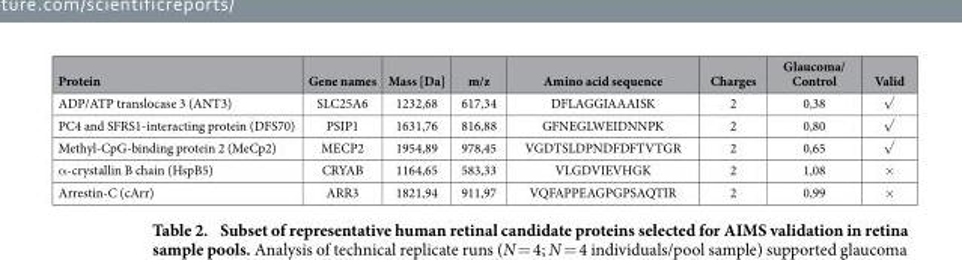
<table><thead><tr><td>Protein</td><td>Gene names</td><td>Mass [Da]</td><td>m/z</td><td>Amino acid sequence</td><td>Charges</td><td>Glaucoma/ Control</td><td>Valid</td></tr></thead><tbody><tr><td>ADP/ATP translocase 3 (ANT3)</td><td>SLC25A6</td><td>1232,68</td><td>617,34</td><td>DFLAGGIAAAISK</td><td>2</td><td>0,38</td><td>√</td></tr><tr><td>PC4 and SFRS1-interacting protein (DFS70)</td><td>PSIP1</td><td>1631,76</td><td>816,88</td><td>GFNEGLWEIDNNPK</td><td>2</td><td>0,80</td><td>√</td></tr><tr><td>Methyl-CpG-binding protein 2 (MeCp2)</td><td>MECP2</td><td>1954,89</td><td>978,45</td><td>VGDTSLDPNDFDFTVTGR</td><td>2</td><td>0,65</td><td>√</td></tr><tr><td>α -crystallin B chain (HspB5)</td><td>CRYAB</td><td>1164,65</td><td>583,33</td><td>VLGDVIEVHGK</td><td>2</td><td>1,08</td><td>×</td></tr><tr><td>Arrestin-C (cArr)</td><td>ARR3</td><td>1821,94</td><td>911,97</td><td>VQFAPPEAGPGPSAQTIR</td><td>2</td><td>0,99</td><td>×</td></tr></tbody></table>